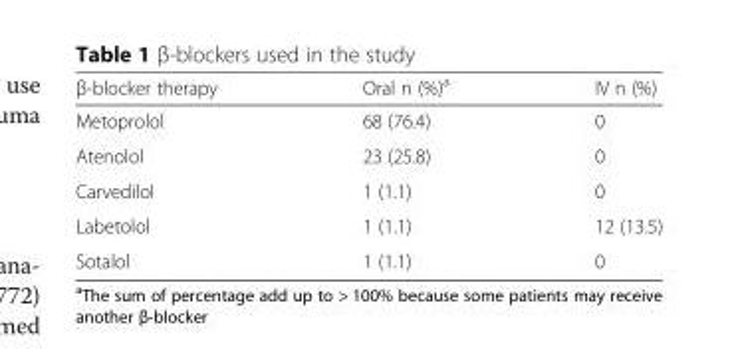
<table><thead><tr><td>β-blocker therapy</td><td>Oral n (%)<sup>a</sup></td><td>IV n (%)</td></tr></thead><tbody><tr><td>Metoprolol</td><td>68 (76.4)</td><td>0</td></tr><tr><td>Atenolol</td><td>23 (25.8)</td><td>0</td></tr><tr><td>Carvedilol</td><td>1 (1.1)</td><td>0</td></tr><tr><td>Labetolol</td><td>1 (1.1)</td><td>12 (13.5)</td></tr><tr><td>Sotalol</td><td>1 (1.1)</td><td>0</td></tr></tbody></table>